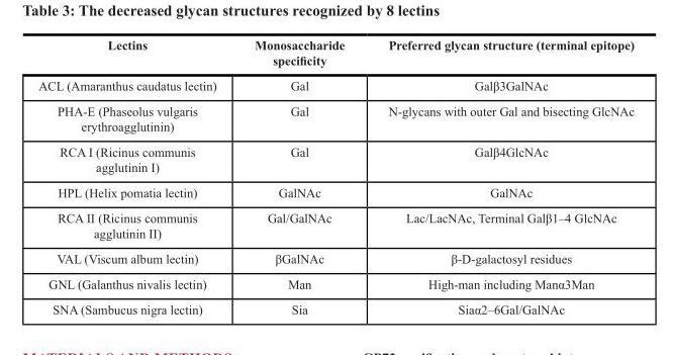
<table><thead><tr><td>Lectins</td><td>Monosaccharide specificity</td><td>Preferred glycan structure (terminal epitope)</td></tr></thead><tbody><tr><td>ACL (Amaranthus caudatus lectin)</td><td>Gal</td><td>Galβ3GalNAc</td></tr><tr><td>PHA-E (Phaseolus vulgaris erythroagglutinin)</td><td>Gal</td><td>N-glycans with outer Gal and bisecting GlcNAc</td></tr><tr><td>RCA I (Ricinus communis agglutinin I)</td><td>Gal</td><td>Galβ4GlcNAc</td></tr><tr><td>HPL (Helix pomatia lectin)</td><td>GalNAc</td><td>GalNAc</td></tr><tr><td>RCA II (Ricinus communis agglutinin II)</td><td>Gal/GalNAc</td><td>Lac/LacNAc, Terminal Galβ1–4 GlcNAc</td></tr><tr><td>VAL (Viscum album lectin)</td><td>βGalNAc</td><td>β-D-galactosyl residues</td></tr><tr><td>GNL (Galanthus nivalis lectin)</td><td>Man</td><td>High-man including Manα3Man</td></tr><tr><td>SNA (Sambucus nigra lectin)</td><td>Sia</td><td>Siaα2–6Gal/GalNAc</td></tr></tbody></table>